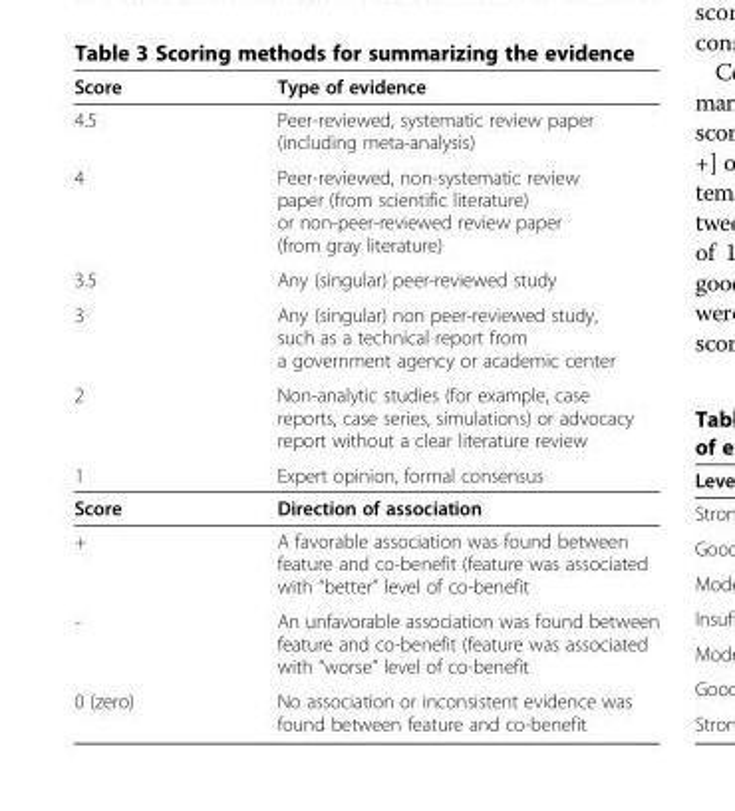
<table><thead><tr><td>Score</td><td>Type of evidence</td></tr></thead><tbody><tr><td>4.5</td><td>Peer-reviewed, systematic review paper (including meta-analysis)</td></tr><tr><td>4</td><td>Peer-reviewed, non-systematic review paper (from scientific literature) or non-peer-reviewed review paper (from gray literature)</td></tr><tr><td>3.5</td><td>Any (singular) peer-reviewed study</td></tr><tr><td>3</td><td>Any (singular) non peer-reviewed study, such as a technical report from a government agency or academic center</td></tr><tr><td>2</td><td>Non-analytic studies (for example, case reports, case series, simulations) or advocacy report without a clear literature review</td></tr><tr><td>1</td><td>Expert opinion, formal consensus</td></tr><tr><td>Score</td><td>Direction of association</td></tr><tr><td>+</td><td>A favorable association was found between feature and co-benefit (feature was associated with “better” level of co-benefit</td></tr><tr><td>-</td><td>An unfavorable association was found between feature and co-benefit (feature was associated with “worse” level of co-benefit</td></tr><tr><td>0 (zero)</td><td>No association or inconsistent evidence was found between feature and co-benefit</td></tr></tbody></table>